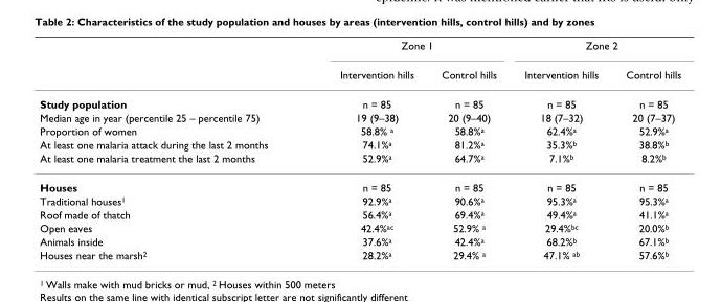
<table><thead><tr><td rowspan="2"></td><td colspan="2">Zone 1</td><td colspan="2">Zone 2</td></tr><tr><td>Intervention hills</td><td>Control hills</td><td>Intervention hills</td><td>Control hills</td></tr></thead><tbody><tr><td>Study population</td><td>n = 85</td><td>n = 85</td><td>n = 85</td><td>n = 85</td></tr><tr><td>Median age in year (percentile 25 – percentile 75)</td><td>19 (9–38)</td><td>20 (9–40)</td><td>18 (7–32)</td><td>20 (7–37)</td></tr><tr><td>Proportion of women</td><td>58.8% <sup>a</sup></td><td>58.8%<sup>a</sup></td><td>62.4%<sup>a</sup></td><td>52.9%<sup>a</sup></td></tr><tr><td>At least one malaria attack during the last 2 months</td><td>74.1%<sup>a</sup></td><td>81.2%<sup>a</sup></td><td>35.3%<sup>b</sup></td><td>38.8%<sup>b</sup></td></tr><tr><td>At least one malaria treatment the last 2 months</td><td>52.9%<sup>a</sup></td><td>64.7%<sup>a</sup></td><td>7.1%<sup>b</sup></td><td>8.2%<sup>b</sup></td></tr><tr><td>Houses</td><td>n = 85</td><td>n = 85</td><td>n = 85</td><td>n = 85</td></tr><tr><td>Traditional houses<sup>1</sup></td><td>92.9%<sup>a</sup></td><td>90.6%<sup>a</sup></td><td>95.3%<sup>a</sup></td><td>95.3%<sup>a</sup></td></tr><tr><td>Roof made of thatch</td><td>56.4%<sup>a</sup></td><td>69.4%<sup>a</sup></td><td>49.4%<sup>a</sup></td><td>41.1%<sup>a</sup></td></tr><tr><td>Open eaves</td><td>42.4%<sup>ac</sup></td><td>52.9% <sup>a</sup></td><td>29.4%<sup>bc</sup></td><td>20.0%<sup>b</sup></td></tr><tr><td>Animals inside</td><td>37.6%<sup>a</sup></td><td>42.4%<sup>a</sup></td><td>68.2%<sup>b</sup></td><td>67.1%<sup>b</sup></td></tr><tr><td>Houses near the marsh<sup>2</sup></td><td>28.2%<sup>a</sup></td><td>29.4% <sup>a</sup></td><td>47.1% <sup>ab</sup></td><td>57.6%<sup>b</sup></td></tr></tbody></table>